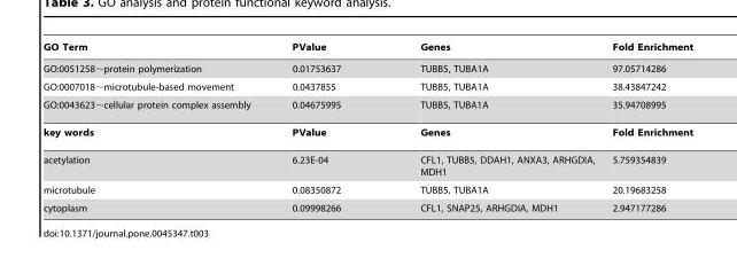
<table><thead><tr><td>GO Term</td><td>PValue</td><td>Genes</td><td>Fold Enrichment</td></tr></thead><tbody><tr><td>GO:0051258∼protein polymerization</td><td>0.01753637</td><td>TUBB5, TUBA1A</td><td>97.05714286</td></tr><tr><td>GO:0007018∼microtubule-based movement</td><td>0.0437855</td><td>TUBB5, TUBA1A</td><td>38.43847242</td></tr><tr><td>GO:0043623∼cellular protein complex assembly</td><td>0.04675995</td><td>TUBB5, TUBA1A</td><td>35.94708995</td></tr><tr><td>key words</td><td>PValue</td><td>Genes</td><td>Fold Enrichment</td></tr><tr><td>acetylation</td><td>6.23E-04</td><td>CFL1, TUBB5, DDAH1, ANXA3, ARHGDIA, MDH1</td><td>5.759354839</td></tr><tr><td>microtubule</td><td>0.08350872</td><td>TUBB5, TUBA1A</td><td>20.19683258</td></tr><tr><td>cytoplasm</td><td>0.09998266</td><td>CFL1, SNAP25, ARHGDIA, MDH1</td><td>2.947177286</td></tr></tbody></table>